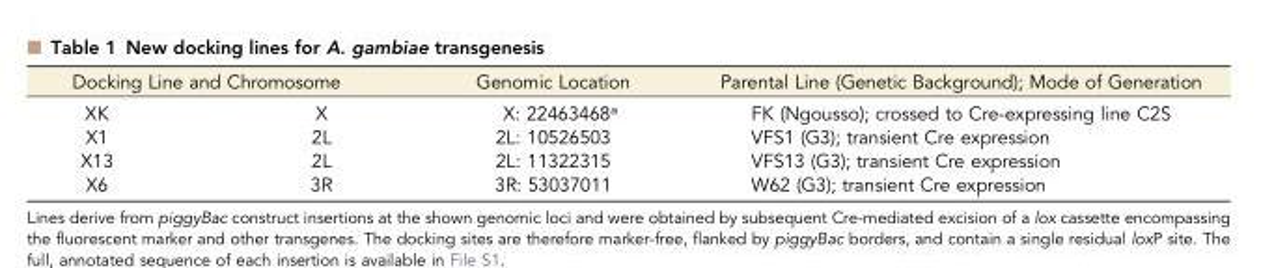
<table><thead><tr><td colspan="2">Docking Line and Chromosome</td><td rowspan="2">Genomic Location X: 22463468<sup>a</sup></td><td rowspan="2">Parental Line (Genetic Background); Mode of Generation FK (Ngousso); crossed to Cre-expressing line C2S</td></tr><tr><td>XK</td><td>X</td></tr></thead><tbody><tr><td>X1</td><td>2L</td><td>2L: 10526503</td><td>VFS1 (G3); transient Cre expression</td></tr><tr><td>X13</td><td>2L</td><td>2L: 11322315</td><td>VFS13 (G3); transient Cre expression</td></tr><tr><td>X6</td><td>3R</td><td>3R: 53037011</td><td>W62 (G3); transient Cre expression</td></tr></tbody></table>